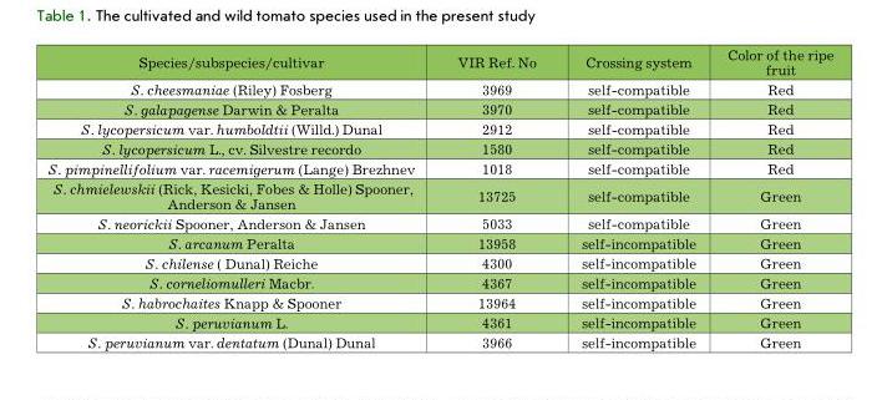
<table><thead><tr><td>Species/subspecies/cultivar</td><td>VIR Ref. No</td><td>Crossing system</td><td>Color of the ripe fruit</td></tr></thead><tbody><tr><td>S. cheesmaniae (Riley) Fosberg</td><td>3969</td><td>self-compatible</td><td>Red</td></tr><tr><td>S. galapagense Darwin &amp; Peralta</td><td>3970</td><td>self-compatible</td><td>Red</td></tr><tr><td>S. lycopersicum var. humboldtii (Willd.) Dunal</td><td>2912</td><td>self-compatible</td><td>Red</td></tr><tr><td>S. lycopersicum L., cv. Silvestre recordo</td><td>1580</td><td>self-compatible</td><td>Red</td></tr><tr><td>S. pimpinellifolium var. racemigerum (Lange) Brezhnev</td><td>1018</td><td>self-compatible</td><td>Red</td></tr><tr><td>S. chmielewskii (Rick, Kesicki, Fobes &amp; Holle) Spooner, Anderson &amp; Jansen</td><td>13725</td><td>self-compatible</td><td>Green</td></tr><tr><td>S. neorickii Spooner, Anderson &amp; Jansen</td><td>5033</td><td>self-compatible</td><td>Green</td></tr><tr><td>S. arcanum Peralta</td><td>13958</td><td>self-incompatible</td><td>Green</td></tr><tr><td>S. chilense ( Dunal) Reiche</td><td>4300</td><td>self-incompatible</td><td>Green</td></tr><tr><td>S. corneliomulleri Macbr.</td><td>4367</td><td>self-incompatible</td><td>Green</td></tr><tr><td>S. habrochaites Knapp &amp; Spooner</td><td>13964</td><td>self-incompatible</td><td>Green</td></tr><tr><td>S. peruvianum L.</td><td>4361</td><td>self-incompatible</td><td>Green</td></tr><tr><td>S. peruvianum var. dentatum (Dunal) Dunal</td><td>3966</td><td>self-incompatible</td><td>Green</td></tr></tbody></table>